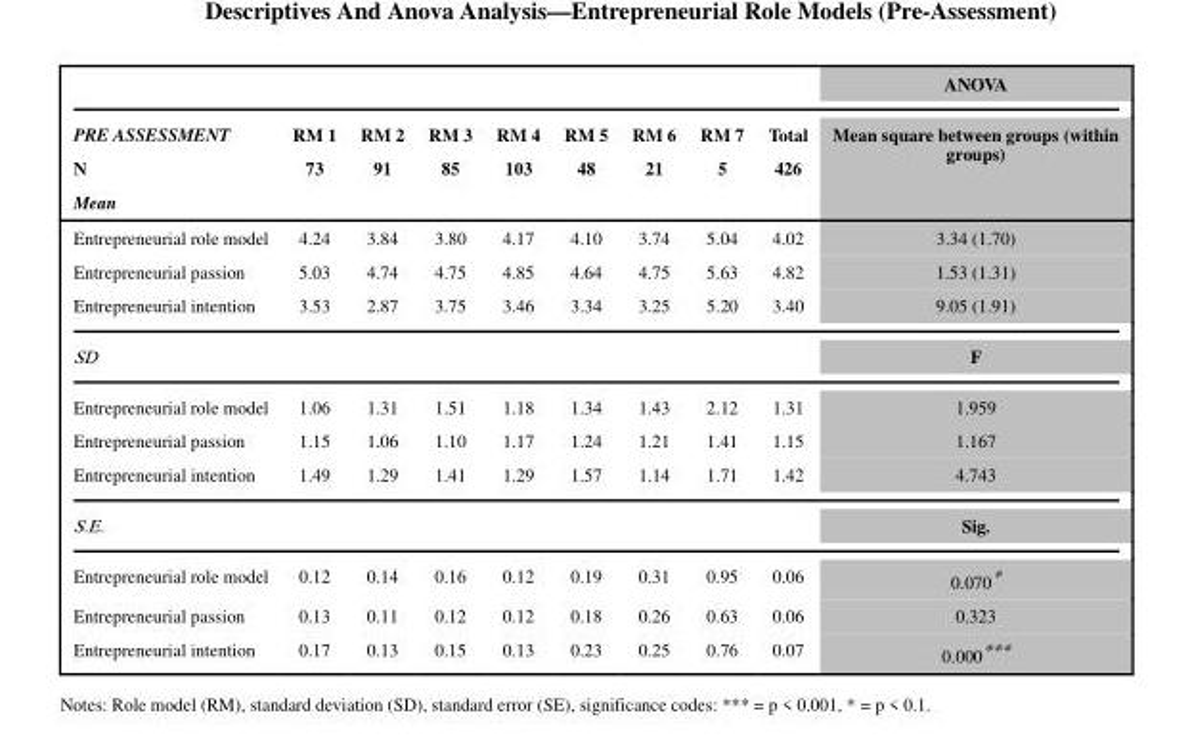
<table><thead><tr><td rowspan="3">PRE ASSESSMENT N</td><td rowspan="3">RM 1 73</td><td rowspan="3">RM 2 91</td><td rowspan="3">RM 3 85</td><td rowspan="3">RM 4 103</td><td rowspan="3">RM 5 48</td><td rowspan="3">RM 6 21</td><td rowspan="3">RM 7 5</td><td rowspan="3">Total 426</td><td rowspan="4">ANOVA Mean square between groups (within groups)</td></tr><tr></tr><tr></tr><tr><td colspan="9">Mean</td></tr></thead><tbody><tr><td>Entrepreneurial role model</td><td>4.24</td><td>3.84</td><td>3.80</td><td>4.17</td><td>4.10</td><td>3.74</td><td>5.04</td><td>4.02</td><td>3.34 (1.70)</td></tr><tr><td>Entrepreneurial passion</td><td>5.03</td><td>4.74</td><td>4.75</td><td>4.85</td><td>4.64</td><td>4.75</td><td>5.63</td><td>4.82</td><td>1.53 (1.31)</td></tr><tr><td>Entrepreneurial intention</td><td>3.53</td><td>2.87</td><td>3.75</td><td>3.46</td><td>3.34</td><td>3.25</td><td>5.20</td><td>3.40</td><td>9.05 (1.91)</td></tr><tr><td colspan="9">SD</td><td>F</td></tr><tr><td>Entrepreneurial role model</td><td>1.06</td><td>1.31</td><td>1.51</td><td>1.18</td><td>1.34</td><td>1.43</td><td>2.12</td><td>1.31</td><td>1.959</td></tr><tr><td>Entrepreneurial passion</td><td>1.15</td><td>1.06</td><td>1.10</td><td>1.17</td><td>1.24</td><td>1.21</td><td>1.41</td><td>1.15</td><td>1.167</td></tr><tr><td>Entrepreneurial intention</td><td>1.49</td><td>1.29</td><td>1.41</td><td>1.29</td><td>1.57</td><td>1.14</td><td>1.71</td><td>1.42</td><td>4.743</td></tr><tr><td colspan="9">S.E.</td><td>Sig.</td></tr><tr><td>Entrepreneurial role model</td><td>0.12</td><td>0.14</td><td>0.16</td><td>0.12</td><td>0.19</td><td>0.31</td><td>0.95</td><td>0.06</td><td>0.070*</td></tr><tr><td>Entrepreneurial passion</td><td>0.13</td><td>0.11</td><td>0.12</td><td>0.12</td><td>0.18</td><td>0.26</td><td>0.63</td><td>0.06</td><td>0.323</td></tr><tr><td>Entrepreneurial intention</td><td>0.17</td><td>0.13</td><td>0.15</td><td>0.13</td><td>0.23</td><td>0.25</td><td>0.76</td><td>0.07</td><td>0.000***</td></tr></tbody></table>